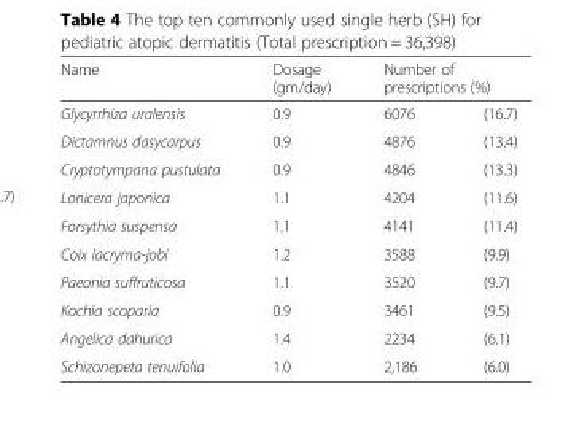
<table><thead><tr><td rowspan="2">Name Glycyrrhiza uralensis</td><td rowspan="2">Dosage (gm/day) 0.9</td><td colspan="2">Number of prescriptions (%)</td></tr><tr><td>6076</td><td>(16.7)</td></tr></thead><tbody><tr><td>Dictamnus dasycarpus</td><td>0.9</td><td>4876</td><td>(13.4)</td></tr><tr><td>Cryptotympana pustulata</td><td>0.9</td><td>4846</td><td>(13.3)</td></tr><tr><td>Lonicera japonica</td><td>1.1</td><td>4204</td><td>(11.6)</td></tr><tr><td>Forsythia suspensa</td><td>1.1</td><td>4141</td><td>(11.4)</td></tr><tr><td>Coix lacryma-jobi</td><td>1.2</td><td>3588</td><td>(9.9)</td></tr><tr><td>Paeonia suffruticosa</td><td>1.1</td><td>3520</td><td>(9.7)</td></tr><tr><td>Kochia scoparia</td><td>0.9</td><td>3461</td><td>(9.5)</td></tr><tr><td>Angelica dahurica</td><td>1.4</td><td>2234</td><td>(6.1)</td></tr><tr><td>Schizonepeta tenuifolia</td><td>1.0</td><td>2,186</td><td>(6.0)</td></tr></tbody></table>